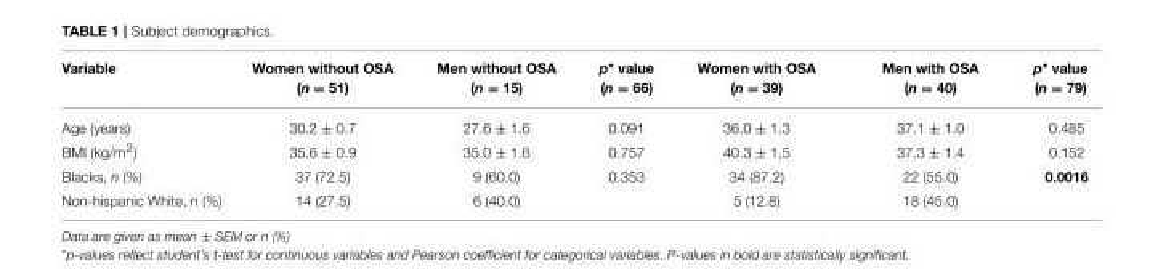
<table><thead><tr><td>Variable</td><td>Women without OSA (n = 51)</td><td>Men without OSA (n = 15)</td><td>p* value (n = 66)</td><td>Women with OSA (n = 39)</td><td>Men with OSA (n = 40)</td><td>p* value (n = 79)</td></tr></thead><tbody><tr><td>Age (years)</td><td>30.2 ± 0.7</td><td>27.6 ± 1.6</td><td>0.091</td><td>36.0 ± 1.3</td><td>37.1 ± 1.0</td><td>0.485</td></tr><tr><td>BMI (kg/m<sup>2</sup>)</td><td>35.6 ± 0.9</td><td>35.0 ± 1.6</td><td>0.757</td><td>40.3 ± 1.5</td><td>37.3 ± 1.4</td><td>0.152</td></tr><tr><td>Blacks, n (%)</td><td>37 (72.5)</td><td>9 (60.0)</td><td>0.353</td><td>34 (87.2)</td><td>22 (55.0)</td><td>0.0016</td></tr><tr><td>Non-hispanic White, n (%)</td><td>14 (27.5)</td><td>6 (40.0)</td><td></td><td>5 (12.8)</td><td>18 (45.0)</td><td></td></tr></tbody></table>